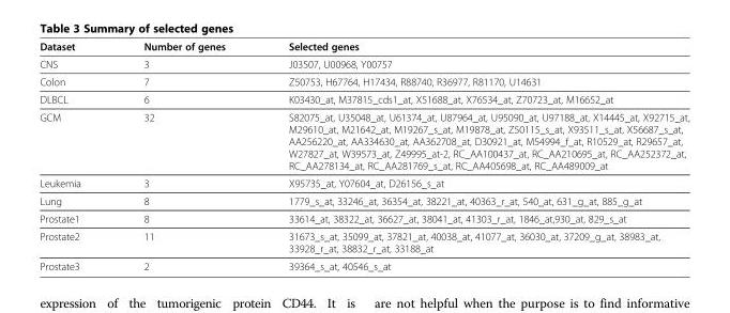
<table><thead><tr><td>Dataset</td><td>Number of genes</td><td>Selected genes</td></tr></thead><tbody><tr><td>CNS</td><td>3</td><td>J03507, U00968, Y00757</td></tr><tr><td>Colon</td><td>7</td><td>Z50753, H67764, H17434, R88740, R36977, R81170, U14631</td></tr><tr><td>DLBCL</td><td>6</td><td>K03430_at, M37815_cds1_at, X51688_at, X76534_at, Z70723_at, M16652_at</td></tr><tr><td>GCM</td><td>32</td><td>S82075_at, U35048_at, U61374_at, U87964_at, U95090_at, U97188_at, X14445_at, X92715_at, M29610_at, M21642_at, M19267_s_at, M19878_at, Z50115_s_at, X93511_s_at, X56687_s_at, AA256220_at, AA334630_at, AA362708_at, D30921_at, M54994_f_at, R10529_at, R29657_at, W27827_at, W39573_at, Z49995_at-2, RC_AA100437_at, RC_AA210695_at, RC_AA252372_at, RC_AA278134_at, RC_AA281769_s_at, RC_AA405698_at, RC_AA489009_at</td></tr><tr><td>Leukemia</td><td>3</td><td>X95735_at, Y07604_at, D26156_s_at</td></tr><tr><td>Lung</td><td>8</td><td>1779_s_at, 33246_at, 36354_at, 38221_at, 40363_r_at, 540_at, 631_g_at, 885_g_at</td></tr><tr><td>Prostate1</td><td>8</td><td>33614_at, 38322_at, 36627_at, 38041_at, 41303_r_at, 1846_at,930_at, 829_s_at</td></tr><tr><td>Prostate2</td><td>11</td><td>31673_s_at, 35099_at, 37821_at, 40038_at, 41077_at, 36030_at, 37209_g_at, 38983_at, 33928_r_at, 38832_r_at, 33188_at</td></tr><tr><td>Prostate3</td><td>2</td><td>39364_s_at, 40546_s_at</td></tr></tbody></table>